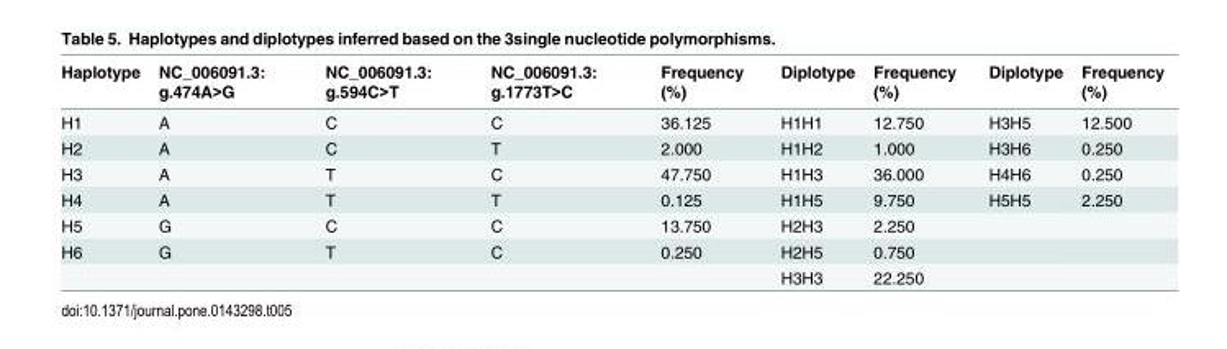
<table><thead><tr><td>Haplotype</td><td>NC_006091.3: g.474A&gt;G</td><td>NC_006091.3: g.594C&gt;T</td><td>NC_006091.3: g.1773T&gt;C</td><td>Frequency (%)</td><td>Diplotype</td><td>Frequency (%)</td><td>Diplotype</td><td>Frequency (%)</td></tr></thead><tbody><tr><td>H1</td><td>A</td><td>C</td><td>C</td><td>36.125</td><td>H1H1</td><td>12.750</td><td>H3H5</td><td>12.500</td></tr><tr><td>H2</td><td>A</td><td>C</td><td>T</td><td>2.000</td><td>H1H2</td><td>1.000</td><td>H3H6</td><td>0.250</td></tr><tr><td>H3</td><td>A</td><td>T</td><td>C</td><td>47.750</td><td>H1H3</td><td>36.000</td><td>H4H6</td><td>0.250</td></tr><tr><td>H4</td><td>A</td><td>T</td><td>T</td><td>0.125</td><td>H1H5</td><td>9.750</td><td>H5H5</td><td>2.250</td></tr><tr><td>H5</td><td>G</td><td>C</td><td>C</td><td>13.750</td><td>H2H3</td><td>2.250</td><td></td><td></td></tr><tr><td rowspan="2">H6</td><td>G</td><td>T</td><td>C</td><td>0.250</td><td>H2H5</td><td>0.750</td><td></td><td></td></tr><tr><td></td><td></td><td></td><td></td><td>H3H3</td><td>22.250</td><td></td><td></td></tr></tbody></table>